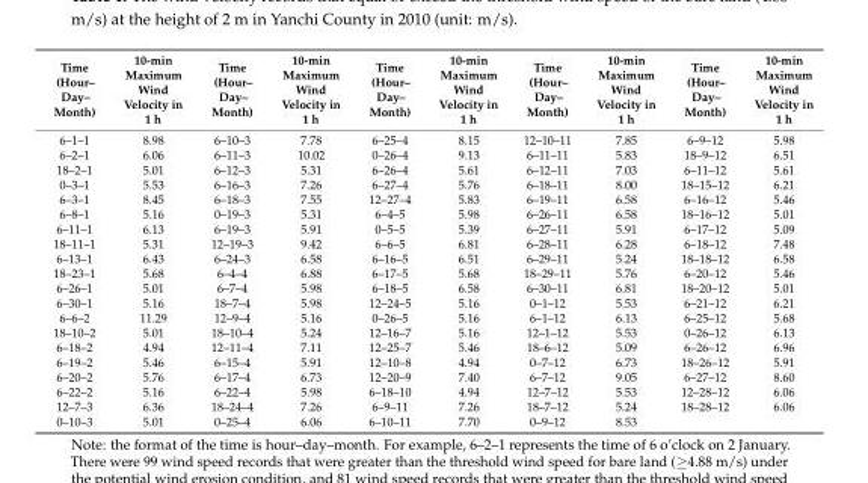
<table><thead><tr><td>Time (Hour– Day– Month)</td><td>10-min Maximum Wind Velocity in 1 h</td><td>Time (Hour– Day– Month)</td><td>10-min Maximum Wind Velocity in 1 h</td><td>Time (Hour– Day– Month)</td><td>10-min Maximum Wind Velocity in 1 h</td><td>Time (Hour– Day– Month)</td><td>10-min Maximum Wind Velocity in 1 h</td><td>Time (Hour– Day– Month)</td><td>10-min Maximum Wind Velocity in 1 h</td></tr></thead><tbody><tr><td>6–1–1</td><td>8.98</td><td>6–10–3</td><td>7.78</td><td>6–25–4</td><td>8.15</td><td>12–10–11</td><td>7.85</td><td>6–9–12</td><td>5.98</td></tr><tr><td>6–2–1</td><td>6.06</td><td>6–11–3</td><td>10.02</td><td>0–26–4</td><td>9.13</td><td>6–11–11</td><td>5.83</td><td>18–9–12</td><td>6.51</td></tr><tr><td>18–2–1</td><td>5.01</td><td>6–12–3</td><td>5.31</td><td>6–26–4</td><td>5.61</td><td>6–12–11</td><td>7.03</td><td>6–11–12</td><td>5.61</td></tr><tr><td>0–3–1</td><td>5.53</td><td>6–16–3</td><td>7.26</td><td>6–27–4</td><td>5.76</td><td>6–18–11</td><td>8.00</td><td>18–15–12</td><td>6.21</td></tr><tr><td>6–3–1</td><td>8.45</td><td>6–18–3</td><td>7.55</td><td>12–27–4</td><td>5.83</td><td>6–19–11</td><td>6.58</td><td>6–16–12</td><td>5.46</td></tr><tr><td>6–8–1</td><td>5.16</td><td>0–19–3</td><td>5.31</td><td>6–4–5</td><td>5.98</td><td>6–26–11</td><td>6.58</td><td>18–16–12</td><td>5.01</td></tr><tr><td>6–11–1</td><td>6.13</td><td>6–19–3</td><td>5.91</td><td>0–5–5</td><td>5.39</td><td>6–27–11</td><td>5.91</td><td>6–17–12</td><td>5.09</td></tr><tr><td>18–11–1</td><td>5.31</td><td>12–19–3</td><td>9.42</td><td>6–6–5</td><td>6.81</td><td>6–28–11</td><td>6.28</td><td>6–18–12</td><td>7.48</td></tr><tr><td>6–13–1</td><td>6.43</td><td>6–24–3</td><td>6.58</td><td>6–16–5</td><td>6.51</td><td>6–29–11</td><td>5.24</td><td>18–18–12</td><td>6.58</td></tr><tr><td>18–23–1</td><td>5.68</td><td>6–4–4</td><td>6.88</td><td>6–17–5</td><td>5.68</td><td>18–29–11</td><td>5.76</td><td>6–20–12</td><td>5.46</td></tr><tr><td>6–26–1</td><td>5.01</td><td>6–7–4</td><td>5.98</td><td>6–18–5</td><td>6.58</td><td>6–30–11</td><td>6.81</td><td>18–20–12</td><td>5.01</td></tr><tr><td>6–30–1</td><td>5.16</td><td>18–7–4</td><td>5.98</td><td>12–24–5</td><td>5.16</td><td>0–1–12</td><td>5.53</td><td>6–21–12</td><td>6.21</td></tr><tr><td>6–6–2</td><td>11.29</td><td>12–9–4</td><td>5.16</td><td>0–26–5</td><td>5.16</td><td>6–1–12</td><td>6.13</td><td>6–25–12</td><td>5.68</td></tr><tr><td>18–10–2</td><td>5.01</td><td>18–10–4</td><td>5.24</td><td>12–16–7</td><td>5.16</td><td>12–1–12</td><td>5.53</td><td>0–26–12</td><td>6.13</td></tr><tr><td>6–18–2</td><td>4.94</td><td>12–11–4</td><td>7.11</td><td>12–25–7</td><td>5.46</td><td>18–6–12</td><td>5.09</td><td>6–26–12</td><td>6.96</td></tr><tr><td>6–19–2</td><td>5.46</td><td>6–15–4</td><td>5.91</td><td>12–10–8</td><td>4.94</td><td>0–7–12</td><td>6.73</td><td>18–26–12</td><td>5.91</td></tr><tr><td>6–20–2</td><td>5.76</td><td>6–17–4</td><td>6.73</td><td>12–20–9</td><td>7.40</td><td>6–7–12</td><td>9.05</td><td>6–27–12</td><td>8.60</td></tr><tr><td>6–22–2</td><td>5.16</td><td>6–22–4</td><td>5.98</td><td>6–18–10</td><td>4.94</td><td>12–7–12</td><td>5.53</td><td>12–28–12</td><td>6.06</td></tr><tr><td>12–7–3</td><td>6.36</td><td>18–24–4</td><td>7.26</td><td>6–9–11</td><td>7.26</td><td>18–7–12</td><td>5.24</td><td>18–28–12</td><td>6.06</td></tr><tr><td>0–10–3</td><td>5.01</td><td>0–25–4</td><td>6.06</td><td>6–10–11</td><td>7.70</td><td>0–9–12</td><td>8.53</td><td></td><td></td></tr></tbody></table>